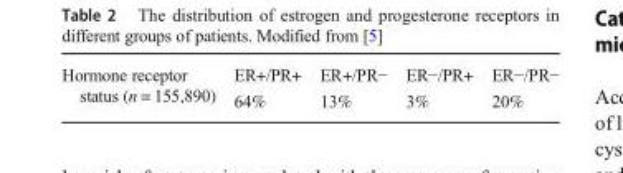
<table><tbody><tr><td rowspan="2">Hormone receptor status (n = 155,890)</td><td>ER+/PR+</td><td>ER+/PR−</td><td>ER−/PR+</td><td>ER−/PR−</td></tr><tr><td>64%</td><td>13%</td><td>3%</td><td>20%</td></tr></tbody></table>